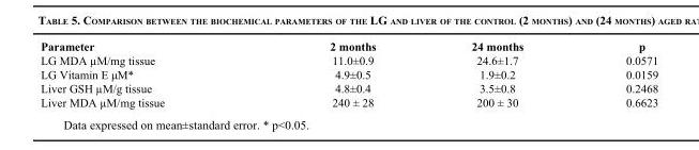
<table><thead><tr><td>Parameter</td><td>2 months</td><td>24 months</td><td>p</td></tr></thead><tbody><tr><td>LG MDA µM/mg tissue</td><td>11.0±0.9</td><td>24.6±1.7</td><td>0.0571</td></tr><tr><td>LG Vitamin E μM*</td><td>4.9±0.5</td><td>1.9±0.2</td><td>0.0159</td></tr><tr><td>Liver GSH µM/g tissue</td><td>4.8±0.4</td><td>3.5±0.8</td><td>0.2468</td></tr><tr><td>Liver MDA µM/mg tissue</td><td>240 ± 28</td><td>200 ± 30</td><td>0.6623</td></tr></tbody></table>